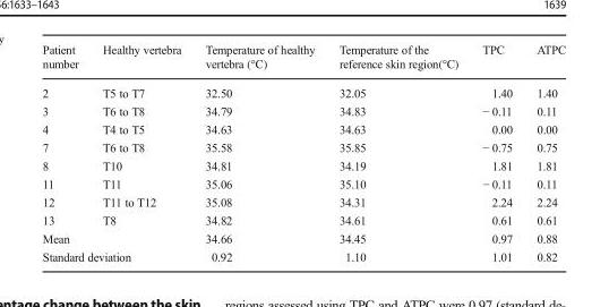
<table><thead><tr><td>Patient number</td><td>Healthy vertebra</td><td>Temperature of healthy vertebra (°C)</td><td>Temperature of the reference skin region(°C)</td><td>TPC</td><td>ATPC</td></tr></thead><tbody><tr><td>2</td><td>T5 to T7</td><td>32.50</td><td>32.05</td><td>1.40</td><td>1.40</td></tr><tr><td>3</td><td>T6 to T8</td><td>34.79</td><td>34.83</td><td>− 0.11</td><td>0.11</td></tr><tr><td>4</td><td>T4 to T5</td><td>34.63</td><td>34.63</td><td>0.00</td><td>0.00</td></tr><tr><td>7</td><td>T6 to T8</td><td>35.58</td><td>35.85</td><td>− 0.75</td><td>0.75</td></tr><tr><td>8</td><td>T10</td><td>34.81</td><td>34.19</td><td>1.81</td><td>1.81</td></tr><tr><td>11</td><td>T11</td><td>35.06</td><td>35.10</td><td>− 0.11</td><td>0.11</td></tr><tr><td>12</td><td>T11 to T12</td><td>35.08</td><td>34.31</td><td>2.24</td><td>2.24</td></tr><tr><td>13</td><td>T8</td><td>34.82</td><td>34.61</td><td>0.61</td><td>0.61</td></tr><tr><td colspan="2">Mean</td><td>34.66</td><td>34.45</td><td>0.97</td><td>0.88</td></tr><tr><td colspan="2">Standard deviation</td><td>0.92</td><td>1.10</td><td>1.01</td><td>0.82</td></tr></tbody></table>